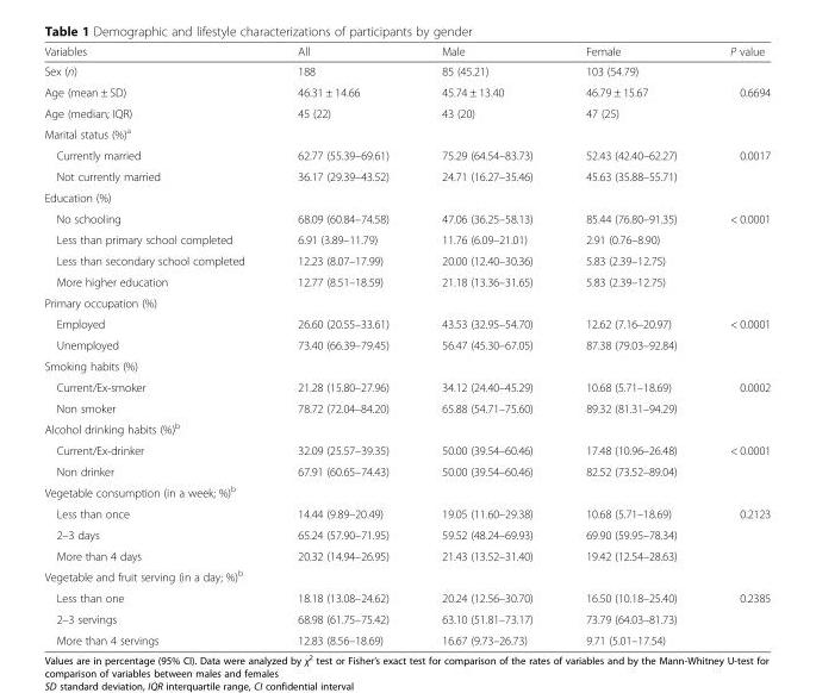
<table><thead><tr><td>Variables</td><td>All</td><td>Male</td><td>Female</td><td>P value</td></tr></thead><tbody><tr><td>Sex (n)</td><td>188</td><td>85 (45.21)</td><td>103 (54.79)</td><td></td></tr><tr><td>Age (mean ± SD)</td><td>46.31 ± 14.66</td><td>45.74 ± 13.40</td><td>46.79 ± 15.67</td><td>0.6694</td></tr><tr><td>Age (median; IQR)</td><td>45 (22)</td><td>43 (20)</td><td>47 (25)</td><td></td></tr><tr><td colspan="5">Marital status (%)<sup>a</sup></td></tr><tr><td>Currently married</td><td>62.77 (55.39–69.61)</td><td>75.29 (64.54–83.73)</td><td>52.43 (42.40–62.27)</td><td>0.0017</td></tr><tr><td>Not currently married</td><td>36.17 (29.39–43.52)</td><td>24.71 (16.27–35.46)</td><td>45.63 (35.88–55.71)</td><td></td></tr><tr><td colspan="5">Education (%)</td></tr><tr><td>No schooling</td><td>68.09 (60.84–74.58)</td><td>47.06 (36.25–58.13)</td><td>85.44 (76.80–91.35)</td><td>&lt; 0.0001</td></tr><tr><td>Less than primary school completed</td><td>6.91 (3.89–11.79)</td><td>11.76 (6.09–21.01)</td><td>2.91 (0.76–8.90)</td><td></td></tr><tr><td>Less than secondary school completed</td><td>12.23 (8.07–17.99)</td><td>20.00 (12.40–30.36)</td><td>5.83 (2.39–12.75)</td><td></td></tr><tr><td>More higher education</td><td>12.77 (8.51–18.59)</td><td>21.18 (13.36–31.65)</td><td>5.83 (2.39–12.75)</td><td></td></tr><tr><td colspan="5">Primary occupation (%)</td></tr><tr><td>Employed</td><td>26.60 (20.55–33.61)</td><td>43.53 (32.95–54.70)</td><td>12.62 (7.16–20.97)</td><td>&lt; 0.0001</td></tr><tr><td>Unemployed</td><td>73.40 (66.39–79.45)</td><td>56.47 (45.30–67.05)</td><td>87.38 (79.03–92.84)</td><td></td></tr><tr><td colspan="5">Smoking habits (%)</td></tr><tr><td>Current/Ex-smoker</td><td>21.28 (15.80–27.96)</td><td>34.12 (24.40–45.29)</td><td>10.68 (5.71–18.69)</td><td>0.0002</td></tr><tr><td>Non smoker</td><td>78.72 (72.04–84.20)</td><td>65.88 (54.71–75.60)</td><td>89.32 (81.31–94.29)</td><td></td></tr><tr><td colspan="5">Alcohol drinking habits (%)<sup>b</sup></td></tr><tr><td>Current/Ex-drinker</td><td>32.09 (25.57–39.35)</td><td>50.00 (39.54–60.46)</td><td>17.48 (10.96–26.48)</td><td>&lt; 0.0001</td></tr><tr><td>Non drinker</td><td>67.91 (60.65–74.43)</td><td>50.00 (39.54–60.46)</td><td>82.52 (73.52–89.04)</td><td></td></tr><tr><td colspan="5">Vegetable consumption (in a week; %)<sup>b</sup></td></tr><tr><td>Less than once</td><td>14.44 (9.89–20.49)</td><td>19.05 (11.60–29.38)</td><td>10.68 (5.71–18.69)</td><td>0.2123</td></tr><tr><td>2–3 days</td><td>65.24 (57.90–71.95)</td><td>59.52 (48.24–69.93)</td><td>69.90 (59.95–78.34)</td><td></td></tr><tr><td>More than 4 days</td><td>20.32 (14.94–26.95)</td><td>21.43 (13.52–31.40)</td><td>19.42 (12.54–28.63)</td><td></td></tr><tr><td colspan="5">Vegetable and fruit serving (in a day; %)<sup>b</sup></td></tr><tr><td>Less than one</td><td>18.18 (13.08–24.62)</td><td>20.24 (12.56–30.70)</td><td>16.50 (10.18–25.40)</td><td>0.2385</td></tr><tr><td>2–3 servings</td><td>68.98 (61.75–75.42)</td><td>63.10 (51.81–73.17)</td><td>73.79 (64.03–81.73)</td><td></td></tr><tr><td>More than 4 servings</td><td>12.83 (8.56–18.69)</td><td>16.67 (9.73–26.73)</td><td>9.71 (5.01–17.54)</td><td></td></tr></tbody></table>